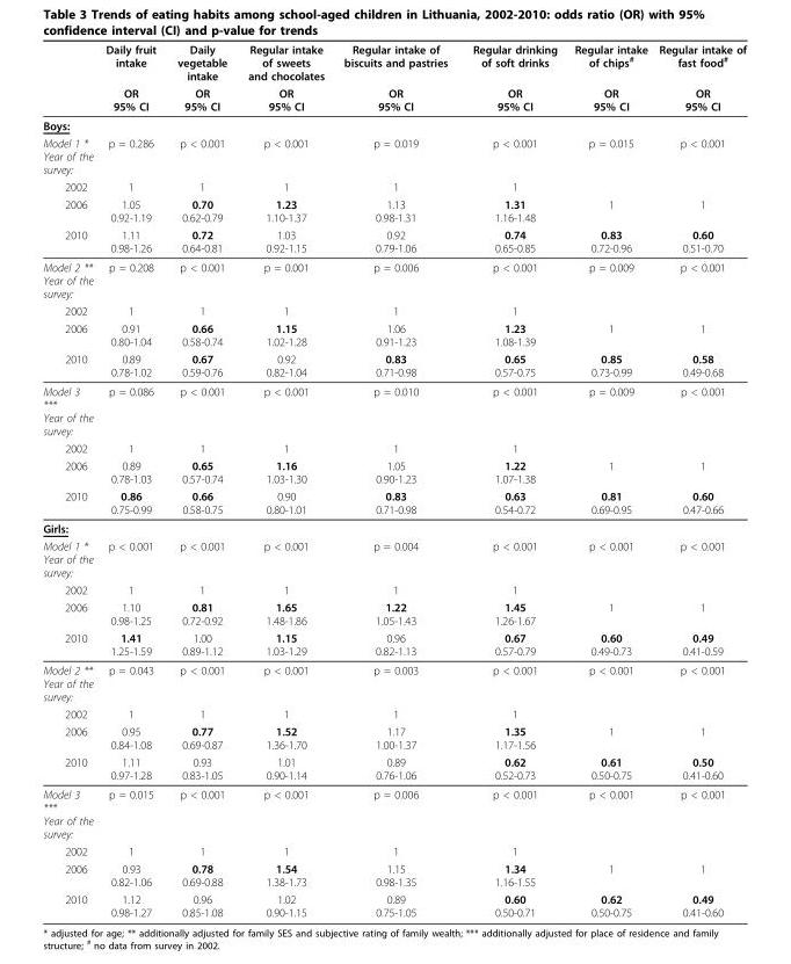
<table><thead><tr><td rowspan="2"></td><td rowspan="2">Daily fruit intake OR 95% CI</td><td rowspan="2">Daily vegetable intake OR 95% CI</td><td rowspan="2">Regular intake of sweets and chocolates OR 95% CI</td><td rowspan="2">Regular intake of biscuits and pastries OR 95% CI</td><td rowspan="2">Regular drinking of soft drinks OR 95% CI</td><td rowspan="2">Regular intake of chips<sup>#</sup> OR 95% CI</td><td rowspan="2">Regular intake of fast food<sup>#</sup> OR 95% CI</td></tr><tr></tr></thead><tbody><tr><td colspan="8">Boys:</td></tr><tr><td>Model 1 * Year of the survey:</td><td>p = 0.286</td><td>p &lt; 0.001</td><td>p &lt; 0.001</td><td>p = 0.019</td><td>p &lt; 0.001</td><td>p = 0.015</td><td>p &lt; 0.001</td></tr><tr><td>2002</td><td>1</td><td>1</td><td>1</td><td>1</td><td>1</td><td></td><td></td></tr><tr><td>2006</td><td>1.05 0.92-1.19</td><td>0.70 0.62-0.79</td><td>1.23 1.10-1.37</td><td>1.13 0.98-1.31</td><td>1.31 1.16-1.48</td><td>1</td><td>1</td></tr><tr><td>2010</td><td>1.11 0.98-1.26</td><td>0.72 0.64-0.81</td><td>1.03 0.92-1.15</td><td>0.92 0.79-1.06</td><td>0.74 0.65-0.85</td><td>0.83 0.72-0.96</td><td>0.60 0.51-0.70</td></tr><tr><td>Model 2 ** Year of the survey:</td><td>p = 0.208</td><td>p &lt; 0.001</td><td>p = 0.001</td><td>p = 0.006</td><td>p &lt; 0.001</td><td>p = 0.009</td><td>p &lt; 0.001</td></tr><tr><td>2002</td><td>1</td><td>1</td><td>1</td><td>1</td><td>1</td><td></td><td></td></tr><tr><td>2006</td><td>0.91 0.80-1.04</td><td>0.66 0.58-0.74</td><td>1.15 1.02-1.28</td><td>1.06 0.91-1.23</td><td>1.23 1.08-1.39</td><td>1</td><td>1</td></tr><tr><td>2010</td><td>0.89 0.78-1.02</td><td>0.67 0.59-0.76</td><td>0.92 0.82-1.04</td><td>0.83 0.71-0.98</td><td>0.65 0.57-0.75</td><td>0.85 0.73-0.99</td><td>0.58 0.49-0.68</td></tr><tr><td>Model 3 *** Year of the survey:</td><td>p = 0.086</td><td>p &lt; 0.001</td><td>p &lt; 0.001</td><td>p = 0.010</td><td>p &lt; 0.001</td><td>p = 0.009</td><td>p &lt; 0.001</td></tr><tr><td>2002</td><td>1</td><td>1</td><td>1</td><td>1</td><td>1</td><td></td><td></td></tr><tr><td>2006</td><td>0.89 0.78-1.03</td><td>0.65 0.57-0.74</td><td>1.16 1.03-1.30</td><td>1.05 0.90-1.23</td><td>1.22 1.07-1.38</td><td>1</td><td>1</td></tr><tr><td>2010</td><td>0.86 0.75-0.99</td><td>0.66 0.58-0.75</td><td>0.90 0.80-1.01</td><td>0.83 0.71-0.98</td><td>0.63 0.54-0.72</td><td>0.81 0.69-0.95</td><td>0.60 0.47-0.66</td></tr><tr><td colspan="8">Girls:</td></tr><tr><td>Model 1 * Year of the survey:</td><td>p &lt; 0.001</td><td>p &lt; 0.001</td><td>p &lt; 0.001</td><td>p = 0.004</td><td>p &lt; 0.001</td><td>p &lt; 0.001</td><td>p &lt; 0.001</td></tr><tr><td>2002</td><td>1</td><td>1</td><td>1</td><td>1</td><td>1</td><td></td><td></td></tr><tr><td>2006</td><td>1.10 0.98-1.25</td><td>0.81 0.72-0.92</td><td>1.65 1.48-1.86</td><td>1.22 1.05-1.43</td><td>1.45 1.26-1.67</td><td>1</td><td>1</td></tr><tr><td>2010</td><td>1.41 1.25-1.59</td><td>1.00 0.89-1.12</td><td>1.15 1.03-1.29</td><td>0.96 0.82-1.13</td><td>0.67 0.57-0.79</td><td>0.60 0.49-0.73</td><td>0.49 0.41-0.59</td></tr><tr><td>Model 2 ** Year of the survey:</td><td>p = 0.043</td><td>p &lt; 0.001</td><td>p &lt; 0.001</td><td>p = 0.003</td><td>p &lt; 0.001</td><td>p &lt; 0.001</td><td>p &lt; 0.001</td></tr><tr><td>2002</td><td>1</td><td>1</td><td>1</td><td>1</td><td>1</td><td></td><td></td></tr><tr><td>2006</td><td>0.95 0.84-1.08</td><td>0.77 0.69-0.87</td><td>1.52 1.36-1.70</td><td>1.17 1.00-1.37</td><td>1.35 1.17-1.56</td><td>1</td><td>1</td></tr><tr><td>2010</td><td>1.11 0.97-1.28</td><td>0.93 0.83-1.05</td><td>1.01 0.90-1.14</td><td>0.89 0.76-1.06</td><td>0.62 0.52-0.73</td><td>0.61 0.50-0.75</td><td>0.50 0.41-0.60</td></tr><tr><td>Model 3 *** Year of the survey:</td><td>p = 0.015</td><td>p &lt; 0.001</td><td>p &lt; 0.001</td><td>p = 0.006</td><td>p &lt; 0.001</td><td>p &lt; 0.001</td><td>p &lt; 0.001</td></tr><tr><td>2002</td><td>1</td><td>1</td><td>1</td><td>1</td><td>1</td><td></td><td></td></tr><tr><td>2006</td><td>0.93 0.82-1.06</td><td>0.78 0.69-0.88</td><td>1.54 1.38-1.73</td><td>1.15 0.98-1.35</td><td>1.34 1.16-1.55</td><td>1</td><td>1</td></tr><tr><td>2010</td><td>1.12 0.98-1.27</td><td>0.96 0.85-1.08</td><td>1.02 0.90-1.15</td><td>0.89 0.75-1.05</td><td>0.60 0.50-0.71</td><td>0.62 0.50-0.75</td><td>0.49 0.41-0.60</td></tr></tbody></table>